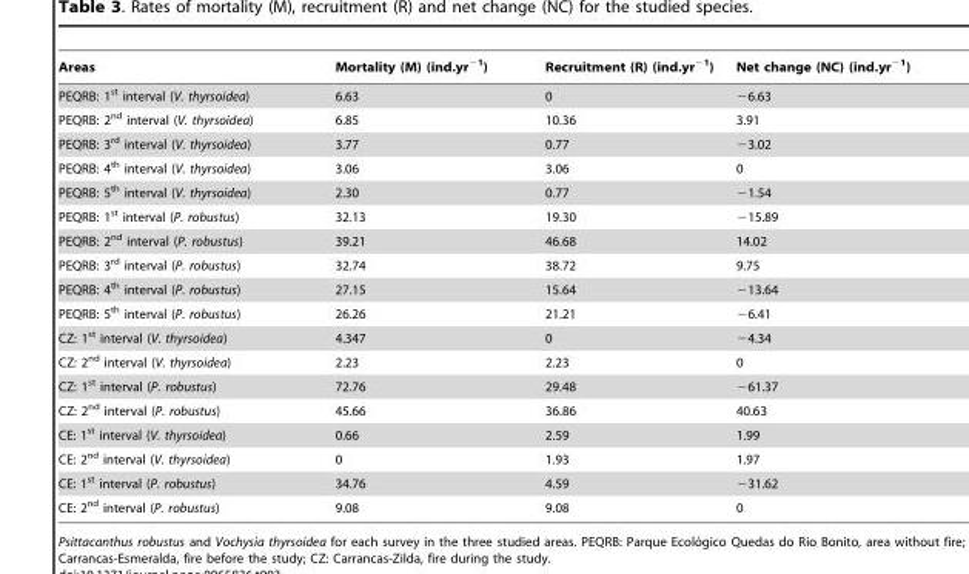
<table><thead><tr><td>Areas</td><td>Mortality (M) (ind.yr<sup>−1</sup>)</td><td>Recruitment (R) (ind.yr<sup>−1</sup>)</td><td>Net change (NC) (ind.yr<sup>−1</sup>)</td></tr></thead><tbody><tr><td>PEQRB: 1<sup>st</sup> interval (V. thyrsoidea)</td><td>6.63</td><td>0</td><td>−6.63</td></tr><tr><td>PEQRB: 2<sup>nd</sup> interval (V. thyrsoidea)</td><td>6.85</td><td>10.36</td><td>3.91</td></tr><tr><td>PEQRB: 3<sup>rd</sup> interval (V. thyrsoidea)</td><td>3.77</td><td>0.77</td><td>−3.02</td></tr><tr><td>PEQRB: 4<sup>th</sup> interval (V. thyrsoidea)</td><td>3.06</td><td>3.06</td><td>0</td></tr><tr><td>PEQRB: 5<sup>th</sup> interval (V. thyrsoidea)</td><td>2.30</td><td>0.77</td><td>−1.54</td></tr><tr><td>PEQRB: 1<sup>st</sup> interval (P. robustus)</td><td>32.13</td><td>19.30</td><td>−15.89</td></tr><tr><td>PEQRB: 2<sup>nd</sup> interval (P. robustus)</td><td>39.21</td><td>46.68</td><td>14.02</td></tr><tr><td>PEQRB: 3<sup>rd</sup> interval (P. robustus)</td><td>32.74</td><td>38.72</td><td>9.75</td></tr><tr><td>PEQRB: 4<sup>th</sup> interval (P. robustus)</td><td>27.15</td><td>15.64</td><td>−13.64</td></tr><tr><td>PEQRB: 5<sup>th</sup> interval (P. robustus)</td><td>26.26</td><td>21.21</td><td>−6.41</td></tr><tr><td>CZ: 1<sup>st</sup> interval (V. thyrsoidea)</td><td>4.347</td><td>0</td><td>−4.34</td></tr><tr><td>CZ: 2<sup>nd</sup> interval (V. thyrsoidea)</td><td>2.23</td><td>2.23</td><td>0</td></tr><tr><td>CZ: 1<sup>st</sup> interval (P. robustus)</td><td>72.76</td><td>29.48</td><td>−61.37</td></tr><tr><td>CZ: 2<sup>nd</sup> interval (P. robustus)</td><td>45.66</td><td>36.86</td><td>40.63</td></tr><tr><td>CE: 1<sup>st</sup> interval (V. thyrsoidea)</td><td>0.66</td><td>2.59</td><td>1.99</td></tr><tr><td>CE: 2<sup>nd</sup> interval (V. thyrsoidea)</td><td>0</td><td>1.93</td><td>1.97</td></tr><tr><td>CE: 1<sup>st</sup> interval (P. robustus)</td><td>34.76</td><td>4.59</td><td>−31.62</td></tr><tr><td>CE: 2<sup>nd</sup> interval (P. robustus)</td><td>9.08</td><td>9.08</td><td>0</td></tr></tbody></table>